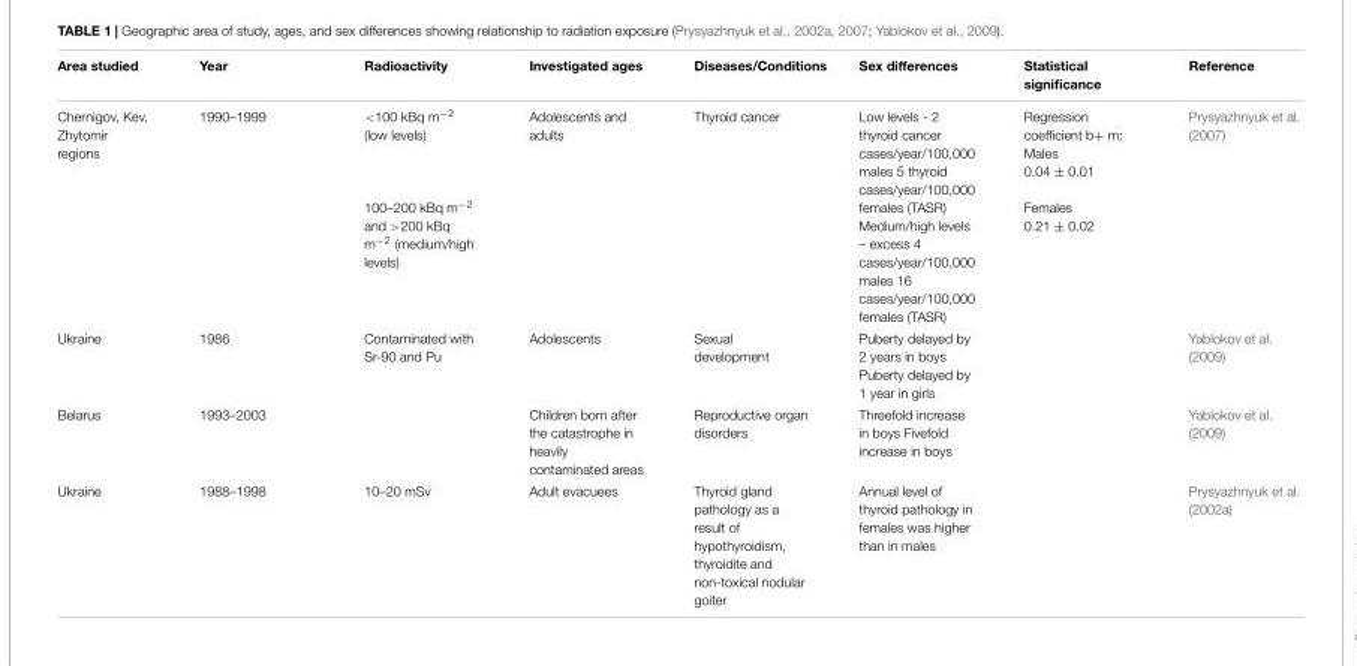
<table><thead><tr><td>Area studied</td><td>Year</td><td>Radioactivity</td><td>Investigated ages</td><td>Diseases/Conditions</td><td>Sex differences</td><td>Statistical significance</td><td>Reference</td></tr></thead><tbody><tr><td>Chernigov, Kev, Zhytomir regions</td><td>1990–1999</td><td>&lt;100 kBq m<sup>−2</sup> (low levels) 100–200 kBq m<sup>−2</sup> and &gt;200 kBq m<sup>−2</sup> (medium/high levels)</td><td>Adolescents and adults</td><td>Thyroid cancer</td><td>Low levels - 2 thyroid cancer cases/year/100,000 males 5 thyroid cases/year/100,000 females (TASR) Medium/high levels – excess 4 cases/year/100,000 males 16 cases/year/100,000 females (TASR)</td><td>Regression coefficient b+ m: Males 0.04 ± 0.01 Females 0.21 ± 0.02</td><td>Prysyazhnyuk et al. (2007)</td></tr><tr><td>Ukraine</td><td>1986</td><td>Contaminated with Sr-90 and Pu</td><td>Adolescents</td><td>Sexual development</td><td>Puberty delayed by 2 years in boys Puberty delayed by 1 year in girls</td><td></td><td>Yablokov et al. (2009)</td></tr><tr><td>Belarus</td><td>1993–2003</td><td></td><td>Children born after the catastrophe in heavily contaminated areas</td><td>Reproductive organ disorders</td><td>Threefold increase in boys Fivefold increase in boys</td><td></td><td>Yablokov et al. (2009)</td></tr><tr><td>Ukraine</td><td>1988–1998</td><td>10–20 mSv</td><td>Adult evacuees</td><td>Thyroid gland pathology as a result of hypothyroidism, thyroidite and non-toxical nodular goiter</td><td>Annual level of thyroid pathology in females was higher than in males</td><td></td><td>Prysyazhnyuk et al. (2002a)</td></tr></tbody></table>